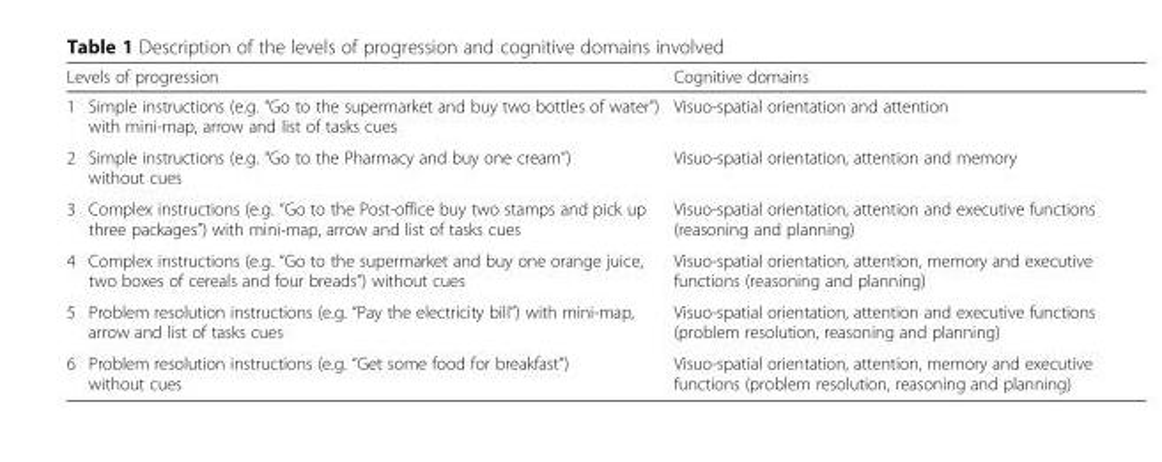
<table><thead><tr><td colspan="2">Levels of progression</td><td rowspan="2">Cognitive domains Visuo-spatial orientation and attention</td></tr><tr><td>1</td><td>Simple instructions (e.g. “Go to the supermarket and buy two bottles of water”) with mini-map, arrow and list of tasks cues</td></tr></thead><tbody><tr><td>2</td><td>Simple instructions (e.g. “Go to the Pharmacy and buy one cream”) without cues</td><td>Visuo-spatial orientation, attention and memory</td></tr><tr><td>3</td><td>Complex instructions (e.g. “Go to the Post-office buy two stamps and pick up three packages”) with mini-map, arrow and list of tasks cues</td><td>Visuo-spatial orientation, attention and executive functions (reasoning and planning)</td></tr><tr><td>4</td><td>Complex instructions (e.g. “Go to the supermarket and buy one orange juice, two boxes of cereals and four breads”) without cues</td><td>Visuo-spatial orientation, attention, memory and executive functions (reasoning and planning)</td></tr><tr><td>5</td><td>Problem resolution instructions (e.g. “Pay the electricity bill”) with mini-map, arrow and list of tasks cues</td><td>Visuo-spatial orientation, attention and executive functions (problem resolution, reasoning and planning)</td></tr><tr><td>6</td><td>Problem resolution instructions (e.g. “Get some food for breakfast”) without cues</td><td>Visuo-spatial orientation, attention, memory and executive functions (problem resolution, reasoning and planning)</td></tr></tbody></table>